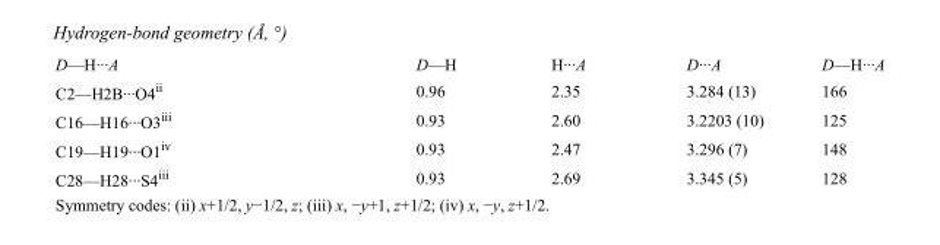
<table><tbody><tr><td>D—H···A</td><td>D—H</td><td>H···A</td><td>D···A</td><td>D—H···A</td></tr><tr><td>C2—H2B···O4<sup>ii</sup></td><td>0.96</td><td>2.35</td><td>3.284 (13)</td><td>166</td></tr><tr><td>C16—H16···O3<sup>iii</sup></td><td>0.93</td><td>2.60</td><td>3.2203 (10)</td><td>125</td></tr><tr><td>C19—H19···O1<sup>iv</sup></td><td>0.93</td><td>2.47</td><td>3.296 (7)</td><td>148</td></tr><tr><td>C28—H28···S4<sup>iii</sup></td><td>0.93</td><td>2.69</td><td>3.345 (5)</td><td>128</td></tr></tbody></table>